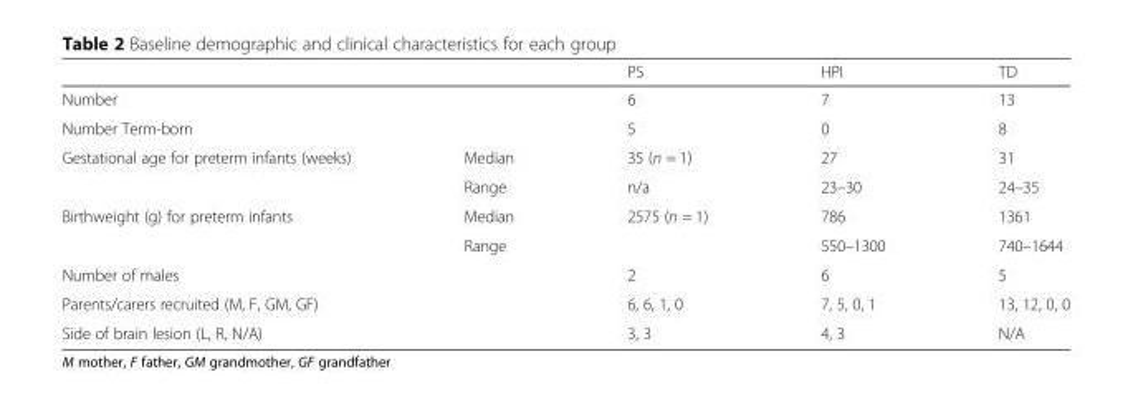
<table><thead><tr><td></td><td></td><td>PS</td><td>HPI</td><td>TD</td></tr></thead><tbody><tr><td>Number</td><td></td><td>6</td><td>7</td><td>13</td></tr><tr><td>Number Term-born</td><td></td><td>5</td><td>0</td><td>8</td></tr><tr><td rowspan="2">Gestational age for preterm infants (weeks)</td><td>Median</td><td>35 (n = 1)</td><td>27</td><td>31</td></tr><tr><td>Range</td><td>n/a</td><td>23–30</td><td>24–35</td></tr><tr><td rowspan="2">Birthweight (g) for preterm infants</td><td>Median</td><td>2575 (n = 1)</td><td>786</td><td>1361</td></tr><tr><td>Range</td><td></td><td>550–1300</td><td>740–1644</td></tr><tr><td>Number of males</td><td></td><td>2</td><td>6</td><td>5</td></tr><tr><td>Parents/carers recruited (M, F, GM, GF)</td><td></td><td>6, 6, 1, 0</td><td>7, 5, 0, 1</td><td>13, 12, 0, 0</td></tr><tr><td>Side of brain lesion (L, R, N/A)</td><td></td><td>3, 3</td><td>4, 3</td><td>N/A</td></tr></tbody></table>